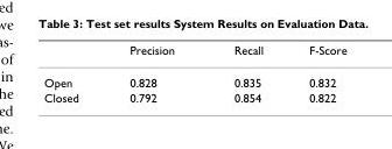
<table><thead><tr><td></td><td>Precision</td><td>Recall</td><td>F-Score</td></tr></thead><tbody><tr><td>Open</td><td>0.828</td><td>0.835</td><td>0.832</td></tr><tr><td>Closed</td><td>0.792</td><td>0.854</td><td>0.822</td></tr></tbody></table>